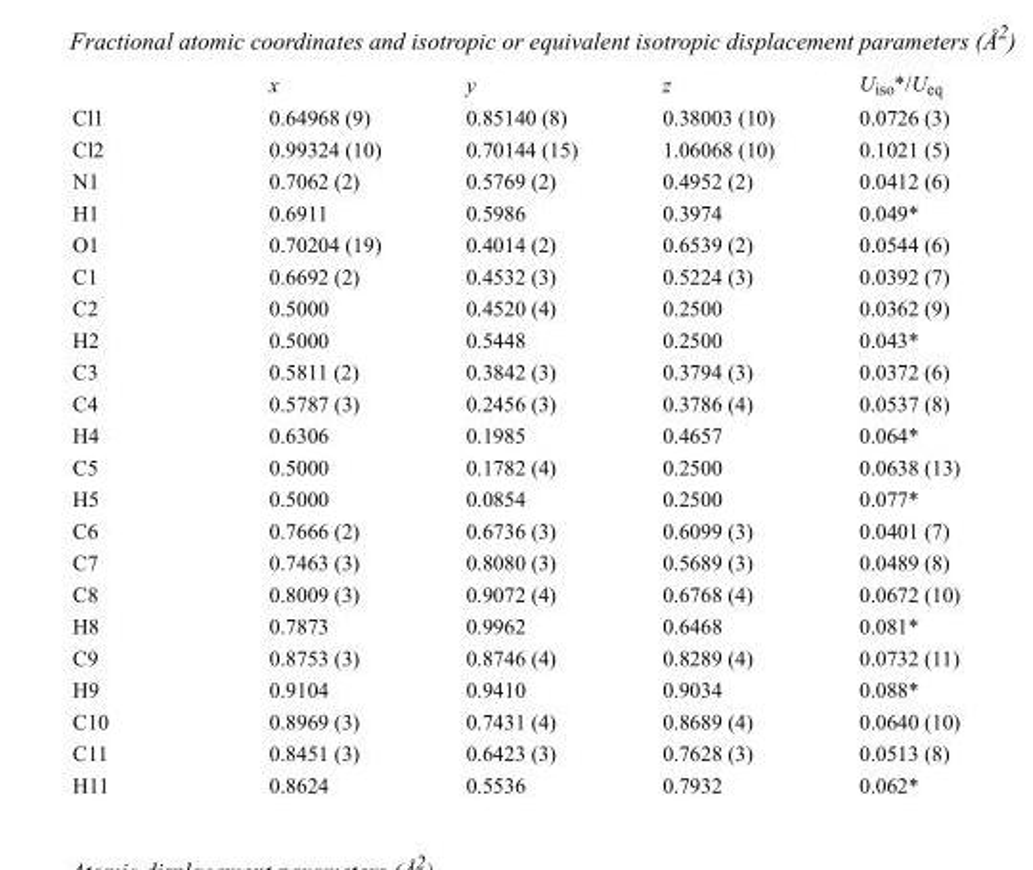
<table><thead><tr><td></td><td>x</td><td>y</td><td>z</td><td>U<sub>iso</sub>*/U<sub>eq</sub></td></tr></thead><tbody><tr><td>Cl1</td><td>0.64968 (9)</td><td>0.85140 (8)</td><td>0.38003 (10)</td><td>0.0726 (3)</td></tr><tr><td>Cl2</td><td>0.99324 (10)</td><td>0.70144 (15)</td><td>1.06068 (10)</td><td>0.1021 (5)</td></tr><tr><td>N1</td><td>0.7062 (2)</td><td>0.5769 (2)</td><td>0.4952 (2)</td><td>0.0412 (6)</td></tr><tr><td>H1</td><td>0.6911</td><td>0.5986</td><td>0.3974</td><td>0.049*</td></tr><tr><td>O1</td><td>0.70204 (19)</td><td>0.4014 (2)</td><td>0.6539 (2)</td><td>0.0544 (6)</td></tr><tr><td>C1</td><td>0.6692 (2)</td><td>0.4532 (3)</td><td>0.5224 (3)</td><td>0.0392 (7)</td></tr><tr><td>C2</td><td>0.5000</td><td>0.4520 (4)</td><td>0.2500</td><td>0.0362 (9)</td></tr><tr><td>H2</td><td>0.5000</td><td>0.5448</td><td>0.2500</td><td>0.043*</td></tr><tr><td>C3</td><td>0.5811 (2)</td><td>0.3842 (3)</td><td>0.3794 (3)</td><td>0.0372 (6)</td></tr><tr><td>C4</td><td>0.5787 (3)</td><td>0.2456 (3)</td><td>0.3786 (4)</td><td>0.0537 (8)</td></tr><tr><td>H4</td><td>0.6306</td><td>0.1985</td><td>0.4657</td><td>0.064*</td></tr><tr><td>C5</td><td>0.5000</td><td>0.1782 (4)</td><td>0.2500</td><td>0.0638 (13)</td></tr><tr><td>H5</td><td>0.5000</td><td>0.0854</td><td>0.2500</td><td>0.077*</td></tr><tr><td>C6</td><td>0.7666 (2)</td><td>0.6736 (3)</td><td>0.6099 (3)</td><td>0.0401 (7)</td></tr><tr><td>C7</td><td>0.7463 (3)</td><td>0.8080 (3)</td><td>0.5689 (3)</td><td>0.0489 (8)</td></tr><tr><td>C8</td><td>0.8009 (3)</td><td>0.9072 (4)</td><td>0.6768 (4)</td><td>0.0672 (10)</td></tr><tr><td>H8</td><td>0.7873</td><td>0.9962</td><td>0.6468</td><td>0.081*</td></tr><tr><td>C9</td><td>0.8753 (3)</td><td>0.8746 (4)</td><td>0.8289 (4)</td><td>0.0732 (11)</td></tr><tr><td>H9</td><td>0.9104</td><td>0.9410</td><td>0.9034</td><td>0.088*</td></tr><tr><td>C10</td><td>0.8969 (3)</td><td>0.7431 (4)</td><td>0.8689 (4)</td><td>0.0640 (10)</td></tr><tr><td>C11</td><td>0.8451 (3)</td><td>0.6423 (3)</td><td>0.7628 (3)</td><td>0.0513 (8)</td></tr><tr><td>H11</td><td>0.8624</td><td>0.5536</td><td>0.7932</td><td>0.062*</td></tr></tbody></table>